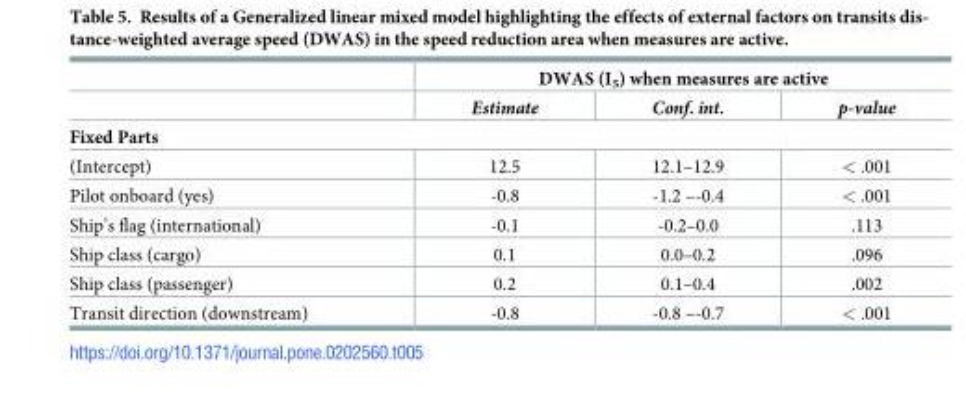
<table><thead><tr><td rowspan="2"></td><td colspan="3">DWAS (I<sub>5</sub>) when measures are active</td></tr><tr><td>Estimate</td><td>Conf. int.</td><td>p-value</td></tr></thead><tbody><tr><td colspan="4">Fixed Parts</td></tr><tr><td>(Intercept)</td><td>12.5</td><td>12.1–12.9</td><td>&lt; .001</td></tr><tr><td>Pilot onboard (yes)</td><td>-0.8</td><td>-1.2 –-0.4</td><td>&lt; .001</td></tr><tr><td>Ship’s flag (international)</td><td>-0.1</td><td>-0.2–0.0</td><td>.113</td></tr><tr><td>Ship class (cargo)</td><td>0.1</td><td>0.0–0.2</td><td>.096</td></tr><tr><td>Ship class (passenger)</td><td>0.2</td><td>0.1–0.4</td><td>.002</td></tr><tr><td>Transit direction (downstream)</td><td>-0.8</td><td>-0.8 –-0.7</td><td>&lt; .001</td></tr></tbody></table>